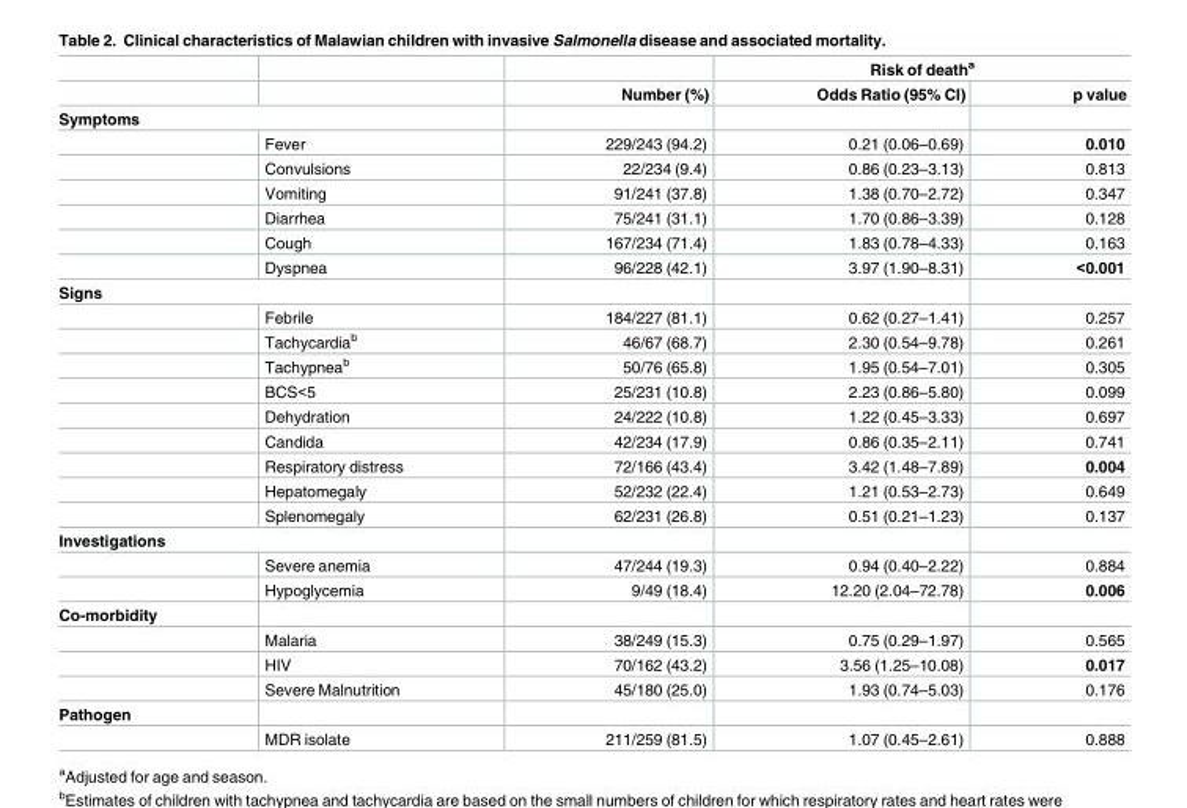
<table><thead><tr><td rowspan="2"></td><td rowspan="2"></td><td rowspan="2">Number (%)</td><td colspan="2">Risk of death<sup>a</sup></td></tr><tr><td>Odds Ratio (95% CI)</td><td>p value</td></tr></thead><tbody><tr><td colspan="5">Symptoms</td></tr><tr><td></td><td>Fever</td><td>229/243 (94.2)</td><td>0.21 (0.06–0.69)</td><td>0.010</td></tr><tr><td></td><td>Convulsions</td><td>22/234 (9.4)</td><td>0.86 (0.23–3.13)</td><td>0.813</td></tr><tr><td></td><td>Vomiting</td><td>91/241 (37.8)</td><td>1.38 (0.70–2.72)</td><td>0.347</td></tr><tr><td></td><td>Diarrhea</td><td>75/241 (31.1)</td><td>1.70 (0.86–3.39)</td><td>0.128</td></tr><tr><td></td><td>Cough</td><td>167/234 (71.4)</td><td>1.83 (0.78–4.33)</td><td>0.163</td></tr><tr><td></td><td>Dyspnea</td><td>96/228 (42.1)</td><td>3.97 (1.90–8.31)</td><td>&lt;0.001</td></tr><tr><td colspan="5">Signs</td></tr><tr><td></td><td>Febrile</td><td>184/227 (81.1)</td><td>0.62 (0.27–1.41)</td><td>0.257</td></tr><tr><td></td><td>Tachycardia<sup>b</sup></td><td>46/67 (68.7)</td><td>2.30 (0.54–9.78)</td><td>0.261</td></tr><tr><td></td><td>Tachypnea<sup>b</sup></td><td>50/76 (65.8)</td><td>1.95 (0.54–7.01)</td><td>0.305</td></tr><tr><td></td><td>BCS&lt;5</td><td>25/231 (10.8)</td><td>2.23 (0.86–5.80)</td><td>0.099</td></tr><tr><td></td><td>Dehydration</td><td>24/222 (10.8)</td><td>1.22 (0.45–3.33)</td><td>0.697</td></tr><tr><td></td><td>Candida</td><td>42/234 (17.9)</td><td>0.86 (0.35–2.11)</td><td>0.741</td></tr><tr><td></td><td>Respiratory distress</td><td>72/166 (43.4)</td><td>3.42 (1.48–7.89)</td><td>0.004</td></tr><tr><td></td><td>Hepatomegaly</td><td>52/232 (22.4)</td><td>1.21 (0.53–2.73)</td><td>0.649</td></tr><tr><td></td><td>Splenomegaly</td><td>62/231 (26.8)</td><td>0.51 (0.21–1.23)</td><td>0.137</td></tr><tr><td colspan="5">Investigations</td></tr><tr><td></td><td>Severe anemia</td><td>47/244 (19.3)</td><td>0.94 (0.40–2.22)</td><td>0.884</td></tr><tr><td></td><td>Hypoglycemia</td><td>9/49 (18.4)</td><td>12.20 (2.04–72.78)</td><td>0.006</td></tr><tr><td colspan="5">Co-morbidity</td></tr><tr><td></td><td>Malaria</td><td>38/249 (15.3)</td><td>0.75 (0.29–1.97)</td><td>0.565</td></tr><tr><td></td><td>HIV</td><td>70/162 (43.2)</td><td>3.56 (1.25–10.08)</td><td>0.017</td></tr><tr><td></td><td>Severe Malnutrition</td><td>45/180 (25.0)</td><td>1.93 (0.74–5.03)</td><td>0.176</td></tr><tr><td colspan="5">Pathogen</td></tr><tr><td></td><td>MDR isolate</td><td>211/259 (81.5)</td><td>1.07 (0.45–2.61)</td><td>0.888</td></tr></tbody></table>